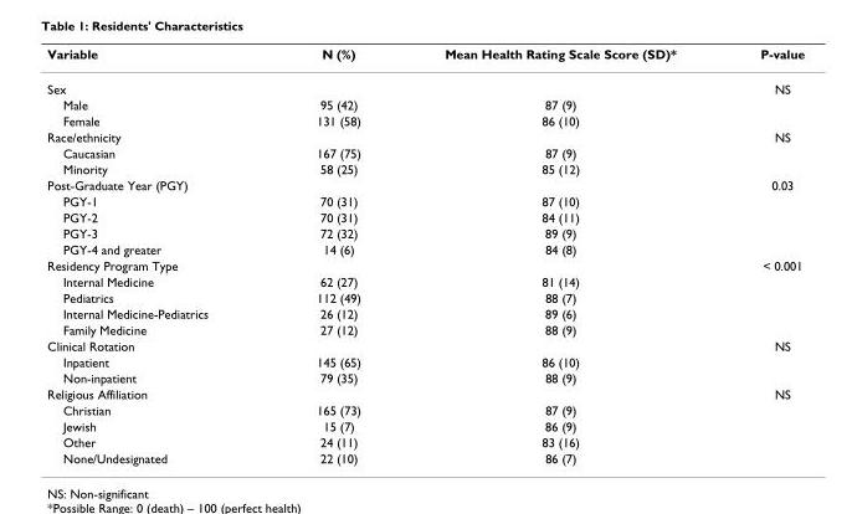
<table><thead><tr><td>Variable</td><td>N (%)</td><td>Mean Health Rating Scale Score (SD)*</td><td>P-value</td></tr></thead><tbody><tr><td>Sex</td><td></td><td></td><td>NS</td></tr><tr><td>Male</td><td>95 (42)</td><td>87 (9)</td><td></td></tr><tr><td>Female</td><td>131 (58)</td><td>86 (10)</td><td></td></tr><tr><td>Race/ethnicity</td><td></td><td></td><td>NS</td></tr><tr><td>Caucasian</td><td>167 (75)</td><td>87 (9)</td><td></td></tr><tr><td>Minority</td><td>58 (25)</td><td>85 (12)</td><td></td></tr><tr><td>Post-Graduate Year (PGY)</td><td></td><td></td><td>0.03</td></tr><tr><td>PGY-1</td><td>70 (31)</td><td>87 (10)</td><td></td></tr><tr><td>PGY-2</td><td>70 (31)</td><td>84 (11)</td><td></td></tr><tr><td>PGY-3</td><td>72 (32)</td><td>89 (9)</td><td></td></tr><tr><td>PGY-4 and greater</td><td>14 (6)</td><td>84 (8)</td><td></td></tr><tr><td>Residency Program Type</td><td></td><td></td><td>&lt; 0.001</td></tr><tr><td>Internal Medicine</td><td>62 (27)</td><td>81 (14)</td><td></td></tr><tr><td>Pediatrics</td><td>112 (49)</td><td>88 (7)</td><td></td></tr><tr><td>Internal Medicine-Pediatrics</td><td>26 (12)</td><td>89 (6)</td><td></td></tr><tr><td>Family Medicine</td><td>27 (12)</td><td>88 (9)</td><td></td></tr><tr><td>Clinical Rotation</td><td></td><td></td><td>NS</td></tr><tr><td>Inpatient</td><td>145 (65)</td><td>86 (10)</td><td></td></tr><tr><td>Non-inpatient</td><td>79 (35)</td><td>88 (9)</td><td></td></tr><tr><td>Religious Affiliation</td><td></td><td></td><td>NS</td></tr><tr><td>Christian</td><td>165 (73)</td><td>87 (9)</td><td></td></tr><tr><td>Jewish</td><td>15 (7)</td><td>86 (9)</td><td></td></tr><tr><td>Other</td><td>24 (11)</td><td>83 (16)</td><td></td></tr><tr><td>None/Undesignated</td><td>22 (10)</td><td>86 (7)</td><td></td></tr></tbody></table>